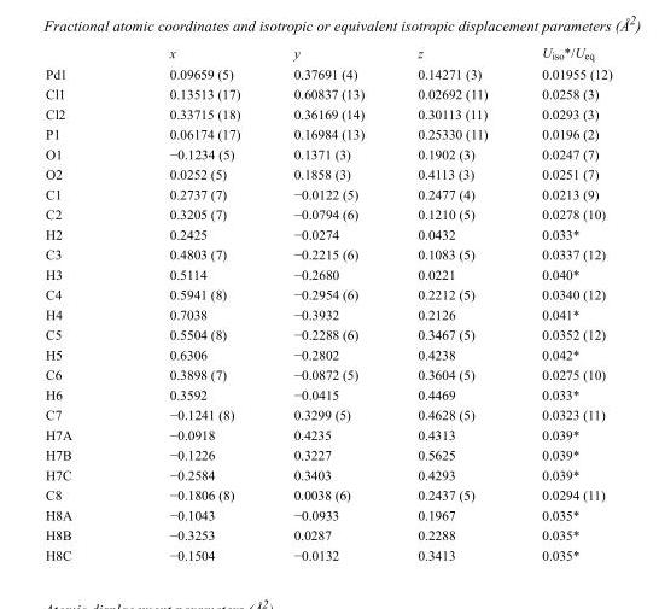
<table><thead><tr><td></td><td>x</td><td>y</td><td>z</td><td>U<sub>iso</sub>*/U<sub>eq</sub></td></tr></thead><tbody><tr><td>Pd1</td><td>0.09659 (5)</td><td>0.37691 (4)</td><td>0.14271 (3)</td><td>0.01955 (12)</td></tr><tr><td>Cl1</td><td>0.13513 (17)</td><td>0.60837 (13)</td><td>0.02692 (11)</td><td>0.0258 (3)</td></tr><tr><td>Cl2</td><td>0.33715 (18)</td><td>0.36169 (14)</td><td>0.30113 (11)</td><td>0.0293 (3)</td></tr><tr><td>P1</td><td>0.06174 (17)</td><td>0.16984 (13)</td><td>0.25330 (11)</td><td>0.0196 (2)</td></tr><tr><td>O1</td><td>−0.1234 (5)</td><td>0.1371 (3)</td><td>0.1902 (3)</td><td>0.0247 (7)</td></tr><tr><td>O2</td><td>0.0252 (5)</td><td>0.1858 (3)</td><td>0.4113 (3)</td><td>0.0251 (7)</td></tr><tr><td>C1</td><td>0.2737 (7)</td><td>−0.0122 (5)</td><td>0.2477 (4)</td><td>0.0213 (9)</td></tr><tr><td>C2</td><td>0.3205 (7)</td><td>−0.0794 (6)</td><td>0.1210 (5)</td><td>0.0278 (10)</td></tr><tr><td>H2</td><td>0.2425</td><td>−0.0274</td><td>0.0432</td><td>0.033*</td></tr><tr><td>C3</td><td>0.4803 (7)</td><td>−0.2215 (6)</td><td>0.1083 (5)</td><td>0.0337 (12)</td></tr><tr><td>H3</td><td>0.5114</td><td>−0.2680</td><td>0.0221</td><td>0.040*</td></tr><tr><td>C4</td><td>0.5941 (8)</td><td>−0.2954 (6)</td><td>0.2212 (5)</td><td>0.0340 (12)</td></tr><tr><td>H4</td><td>0.7038</td><td>−0.3932</td><td>0.2126</td><td>0.041*</td></tr><tr><td>C5</td><td>0.5504 (8)</td><td>−0.2288 (6)</td><td>0.3467 (5)</td><td>0.0352 (12)</td></tr><tr><td>H5</td><td>0.6306</td><td>−0.2802</td><td>0.4238</td><td>0.042*</td></tr><tr><td>C6</td><td>0.3898 (7)</td><td>−0.0872 (5)</td><td>0.3604 (5)</td><td>0.0275 (10)</td></tr><tr><td>H6</td><td>0.3592</td><td>−0.0415</td><td>0.4469</td><td>0.033*</td></tr><tr><td>C7</td><td>−0.1241 (8)</td><td>0.3299 (5)</td><td>0.4628 (5)</td><td>0.0323 (11)</td></tr><tr><td>H7A</td><td>−0.0918</td><td>0.4235</td><td>0.4313</td><td>0.039*</td></tr><tr><td>H7B</td><td>−0.1226</td><td>0.3227</td><td>0.5625</td><td>0.039*</td></tr><tr><td>H7C</td><td>−0.2584</td><td>0.3403</td><td>0.4293</td><td>0.039*</td></tr><tr><td>C8</td><td>−0.1806 (8)</td><td>0.0038 (6)</td><td>0.2437 (5)</td><td>0.0294 (11)</td></tr><tr><td>H8A</td><td>−0.1043</td><td>−0.0933</td><td>0.1967</td><td>0.035*</td></tr><tr><td>H8B</td><td>−0.3253</td><td>0.0287</td><td>0.2288</td><td>0.035*</td></tr><tr><td>H8C</td><td>−0.1504</td><td>−0.0132</td><td>0.3413</td><td>0.035*</td></tr></tbody></table>